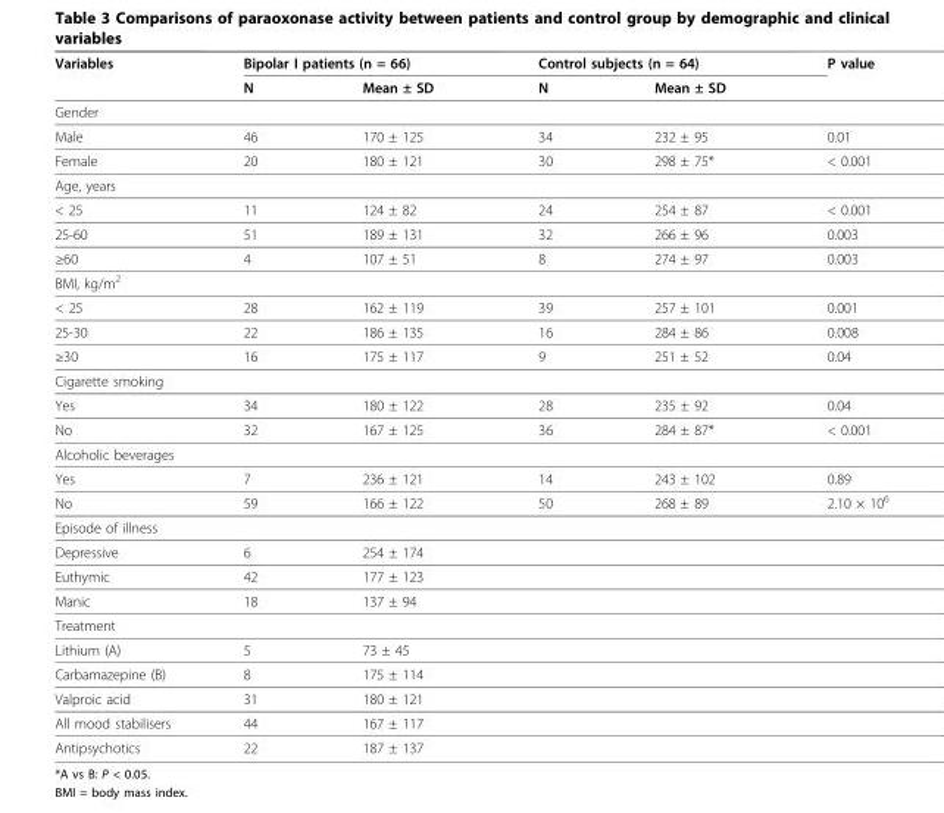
<table><thead><tr><td rowspan="2">Variables</td><td colspan="2">Bipolar I patients (n = 66)</td><td colspan="2">Control subjects (n = 64)</td><td rowspan="2">P value</td></tr><tr><td>N</td><td>Mean ± SD</td><td>N</td><td>Mean ± SD</td></tr></thead><tbody><tr><td colspan="6">Gender</td></tr><tr><td>Male</td><td>46</td><td>170 ± 125</td><td>34</td><td>232 ± 95</td><td>0.01</td></tr><tr><td>Female</td><td>20</td><td>180 ± 121</td><td>30</td><td>298 ± 75*</td><td>&lt; 0.001</td></tr><tr><td colspan="6">Age, years</td></tr><tr><td>&lt; 25</td><td>11</td><td>124 ± 82</td><td>24</td><td>254 ± 87</td><td>&lt; 0.001</td></tr><tr><td>25-60</td><td>51</td><td>189 ± 131</td><td>32</td><td>266 ± 96</td><td>0.003</td></tr><tr><td>≥60</td><td>4</td><td>107 ± 51</td><td>8</td><td>274 ± 97</td><td>0.003</td></tr><tr><td colspan="6">BMI, kg/m<sup>2</sup></td></tr><tr><td>&lt; 25</td><td>28</td><td>162 ± 119</td><td>39</td><td>257 ± 101</td><td>0.001</td></tr><tr><td>25-30</td><td>22</td><td>186 ± 135</td><td>16</td><td>284 ± 86</td><td>0.008</td></tr><tr><td>≥30</td><td>16</td><td>175 ± 117</td><td>9</td><td>251 ± 52</td><td>0.04</td></tr><tr><td colspan="6">Cigarette smoking</td></tr><tr><td>Yes</td><td>34</td><td>180 ± 122</td><td>28</td><td>235 ± 92</td><td>0.04</td></tr><tr><td>No</td><td>32</td><td>167 ± 125</td><td>36</td><td>284 ± 87*</td><td>&lt; 0.001</td></tr><tr><td colspan="6">Alcoholic beverages</td></tr><tr><td>Yes</td><td>7</td><td>236 ± 121</td><td>14</td><td>243 ± 102</td><td>0.89</td></tr><tr><td>No</td><td>59</td><td>166 ± 122</td><td>50</td><td>268 ± 89</td><td>2.10 × 10<sup>6</sup></td></tr><tr><td colspan="6">Episode of illness</td></tr><tr><td>Depressive</td><td>6</td><td>254 ± 174</td><td></td><td></td><td></td></tr><tr><td>Euthymic</td><td>42</td><td>177 ± 123</td><td></td><td></td><td></td></tr><tr><td>Manic</td><td>18</td><td>137 ± 94</td><td></td><td></td><td></td></tr><tr><td colspan="6">Treatment</td></tr><tr><td>Lithium (A)</td><td>5</td><td>73 ± 45</td><td></td><td></td><td></td></tr><tr><td>Carbamazepine (B)</td><td>8</td><td>175 ± 114</td><td></td><td></td><td></td></tr><tr><td>Valproic acid</td><td>31</td><td>180 ± 121</td><td></td><td></td><td></td></tr><tr><td>All mood stabilisers</td><td>44</td><td>167 ± 117</td><td></td><td></td><td></td></tr><tr><td>Antipsychotics</td><td>22</td><td>187 ± 137</td><td></td><td></td><td></td></tr></tbody></table>